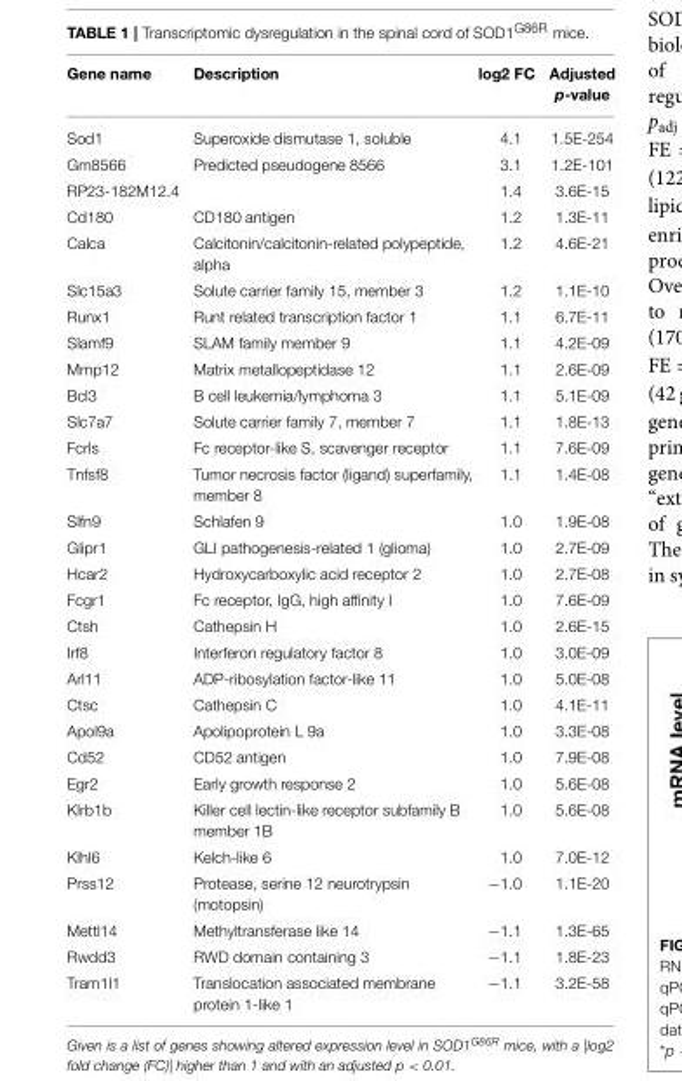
<table><thead><tr><td>Gene name</td><td>Description</td><td>log2 FC</td><td>Adjusted p-value</td></tr></thead><tbody><tr><td>Sod1</td><td>Superoxide dismutase 1, soluble</td><td>4.1</td><td>1.5E-254</td></tr><tr><td>Gm8566</td><td>Predicted pseudogene 8566</td><td>3.1</td><td>1.2E-101</td></tr><tr><td>RP23-182M12.4</td><td></td><td>1.4</td><td>3.6E-15</td></tr><tr><td>Cd180</td><td>CD180 antigen</td><td>1.2</td><td>1.3E-11</td></tr><tr><td>Calca</td><td>Calcitonin/calcitonin-related polypeptide, alpha</td><td>1.2</td><td>4.6E-21</td></tr><tr><td>Slc15a3</td><td>Solute carrier family 15, member 3</td><td>1.2</td><td>1.1E-10</td></tr><tr><td>Runx1</td><td>Runt related transcription factor 1</td><td>1.1</td><td>6.7E-11</td></tr><tr><td>Slamf9</td><td>SLAM family member 9</td><td>1.1</td><td>4.2E-09</td></tr><tr><td>Mmp12</td><td>Matrix metallopeptidase 12</td><td>1.1</td><td>2.6E-09</td></tr><tr><td>Bcl3</td><td>B cell leukemia/lymphoma 3</td><td>1.1</td><td>5.1E-09</td></tr><tr><td>Slc7a7</td><td>Solute carrier family 7, member 7</td><td>1.1</td><td>1.8E-13</td></tr><tr><td>Fcrls</td><td>Fc receptor-like S, scavenger receptor</td><td>1.1</td><td>7.6E-09</td></tr><tr><td>Tnfsf8</td><td>Tumor necrosis factor (ligand) superfamily, member 8</td><td>1.1</td><td>1.4E-08</td></tr><tr><td>Slfn9</td><td>Schlafen 9</td><td>1.0</td><td>1.9E-08</td></tr><tr><td>Glipr1</td><td>GLI pathogenesis-related 1 (glioma)</td><td>1.0</td><td>2.7E-09</td></tr><tr><td>Hcar2</td><td>Hydroxycarboxylic acid receptor 2</td><td>1.0</td><td>2.7E-08</td></tr><tr><td>Fcgr1</td><td>Fc receptor, IgG, high affinity I</td><td>1.0</td><td>7.6E-09</td></tr><tr><td>Ctsh</td><td>Cathepsin H</td><td>1.0</td><td>2.6E-15</td></tr><tr><td>Irf8</td><td>Interferon regulatory factor 8</td><td>1.0</td><td>3.0E-09</td></tr><tr><td>Arl11</td><td>ADP-ribosylation factor-like 11</td><td>1.0</td><td>5.0E-08</td></tr><tr><td>Ctsc</td><td>Cathepsin C</td><td>1.0</td><td>4.1E-11</td></tr><tr><td>Apol9a</td><td>Apolipoprotein L 9a</td><td>1.0</td><td>3.3E-08</td></tr><tr><td>Cd52</td><td>CD52 antigen</td><td>1.0</td><td>7.9E-08</td></tr><tr><td>Egr2</td><td>Early growth response 2</td><td>1.0</td><td>5.6E-08</td></tr><tr><td>Klrb1b</td><td>Killer cell lectin-like receptor subfamily B member 1B</td><td>1.0</td><td>5.6E-08</td></tr><tr><td>Klhl6</td><td>Kelch-like 6</td><td>1.0</td><td>7.0E-12</td></tr><tr><td>Prss12</td><td>Protease, serine 12 neurotrypsin (motopsin)</td><td>−1.0</td><td>1.1E-20</td></tr><tr><td>Mettl14</td><td>Methyltransferase like 14</td><td>−1.1</td><td>1.3E-65</td></tr><tr><td>Rwdd3</td><td>RWD domain containing 3</td><td>−1.1</td><td>1.8E-23</td></tr><tr><td>Tram1l1</td><td>Translocation associated membrane protein 1-like 1</td><td>−1.1</td><td>3.2E-58</td></tr></tbody></table>